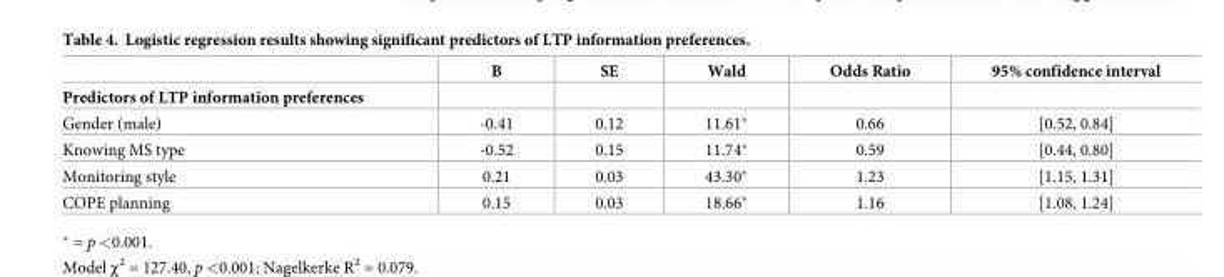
<table><thead><tr><td></td><td>B</td><td>SE</td><td>Wald</td><td>Odds Ratio</td><td>95% confidence interval</td></tr></thead><tbody><tr><td colspan="6">Predictors of LTP information preferences</td></tr><tr><td>Gender (male)</td><td>-0.41</td><td>0.12</td><td>11.61*</td><td>0.66</td><td>[0.52, 0.84]</td></tr><tr><td>Knowing MS type</td><td>-0.52</td><td>0.15</td><td>11.74*</td><td>0.59</td><td>[0.44, 0.80]</td></tr><tr><td>Monitoring style</td><td>0.21</td><td>0.03</td><td>43.30*</td><td>1.23</td><td>[1.15, 1.31]</td></tr><tr><td>COPE planning</td><td>0.15</td><td>0.03</td><td>18.66*</td><td>1.16</td><td>[1.08, 1.24]</td></tr></tbody></table>